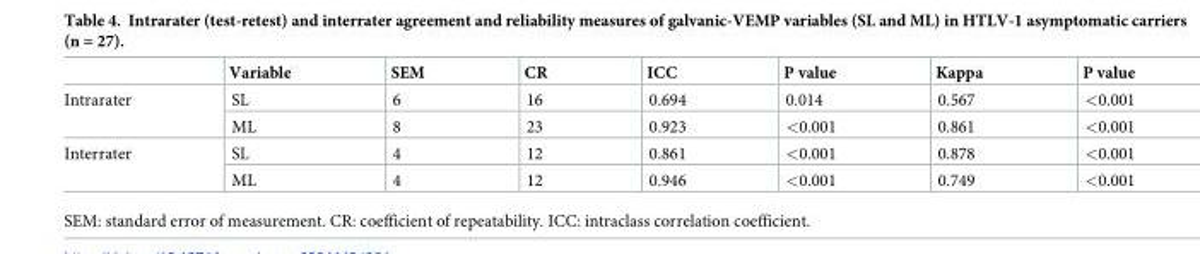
<table><thead><tr><td></td><td>Variable</td><td>SEM</td><td>CR</td><td>ICC</td><td>P value</td><td>Kappa</td><td>P value</td></tr></thead><tbody><tr><td rowspan="2">Intrarater</td><td>SL</td><td>6</td><td>16</td><td>0.694</td><td>0.014</td><td>0.567</td><td>&lt;0.001</td></tr><tr><td>ML</td><td>8</td><td>23</td><td>0.923</td><td>&lt;0.001</td><td>0.861</td><td>&lt;0.001</td></tr><tr><td rowspan="2">Interrater</td><td>SL</td><td>4</td><td>12</td><td>0.861</td><td>&lt;0.001</td><td>0.878</td><td>&lt;0.001</td></tr><tr><td>ML</td><td>4</td><td>12</td><td>0.946</td><td>&lt;0.001</td><td>0.749</td><td>&lt;0.001</td></tr></tbody></table>